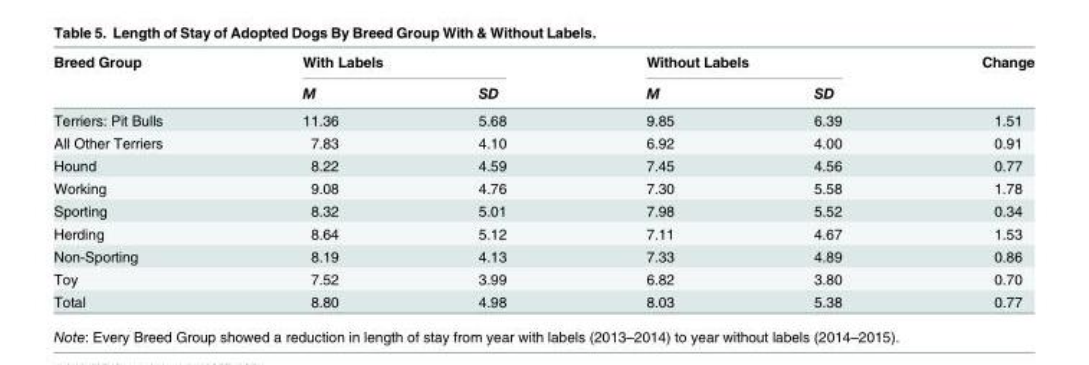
<table><thead><tr><td rowspan="2">Breed Group</td><td colspan="2">With Labels</td><td colspan="2">Without Labels</td><td rowspan="2">Change</td></tr><tr><td>M</td><td>SD</td><td>M</td><td>SD</td></tr></thead><tbody><tr><td>Terriers: Pit Bulls</td><td>11.36</td><td>5.68</td><td>9.85</td><td>6.39</td><td>1.51</td></tr><tr><td>All Other Terriers</td><td>7.83</td><td>4.10</td><td>6.92</td><td>4.00</td><td>0.91</td></tr><tr><td>Hound</td><td>8.22</td><td>4.59</td><td>7.45</td><td>4.56</td><td>0.77</td></tr><tr><td>Working</td><td>9.08</td><td>4.76</td><td>7.30</td><td>5.58</td><td>1.78</td></tr><tr><td>Sporting</td><td>8.32</td><td>5.01</td><td>7.98</td><td>5.52</td><td>0.34</td></tr><tr><td>Herding</td><td>8.64</td><td>5.12</td><td>7.11</td><td>4.67</td><td>1.53</td></tr><tr><td>Non-Sporting</td><td>8.19</td><td>4.13</td><td>7.33</td><td>4.89</td><td>0.86</td></tr><tr><td>Toy</td><td>7.52</td><td>3.99</td><td>6.82</td><td>3.80</td><td>0.70</td></tr><tr><td>Total</td><td>8.80</td><td>4.98</td><td>8.03</td><td>5.38</td><td>0.77</td></tr></tbody></table>